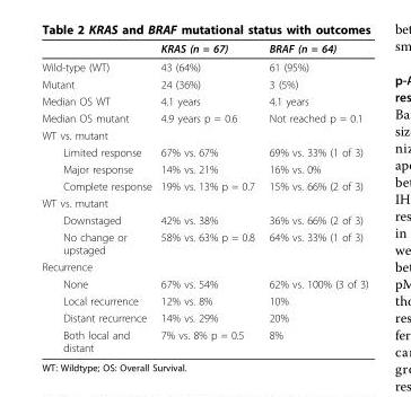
<table><thead><tr><td></td><td>KRAS (n = 67)</td><td>BRAF (n = 64)</td></tr></thead><tbody><tr><td>Wild-type (WT)</td><td>43 (64%)</td><td>61 (95%)</td></tr><tr><td>Mutant</td><td>24 (36%)</td><td>3 (5%)</td></tr><tr><td>Median OS WT</td><td>4.1 years</td><td>4.1 years</td></tr><tr><td>Median OS mutant</td><td>4.9 years p = 0.6</td><td>Not reached p = 0.1</td></tr><tr><td colspan="3">WT vs. mutant</td></tr><tr><td>Limited response</td><td>67% vs. 67%</td><td>69% vs. 33% (1 of 3)</td></tr><tr><td>Major response</td><td>14% vs. 21%</td><td>16% vs. 0%</td></tr><tr><td>Complete response</td><td>19% vs. 13% p = 0.7</td><td>15% vs. 66% (2 of 3)</td></tr><tr><td colspan="3">WT vs. mutant</td></tr><tr><td>Downstaged</td><td>42% vs. 38%</td><td>36% vs. 66% (2 of 3)</td></tr><tr><td>No change or upstaged</td><td>58% vs. 63% p = 0.8</td><td>64% vs. 33% (1 of 3)</td></tr><tr><td colspan="3">Recurrence</td></tr><tr><td>None</td><td>67% vs. 54%</td><td>62% vs. 100% (3 of 3)</td></tr><tr><td>Local recurrence</td><td>12% vs. 8%</td><td>10%</td></tr><tr><td>Distant recurrence</td><td>14% vs. 29%</td><td>20%</td></tr><tr><td>Both local and distant</td><td>7% vs. 8% p = 0.5</td><td>8%</td></tr></tbody></table>